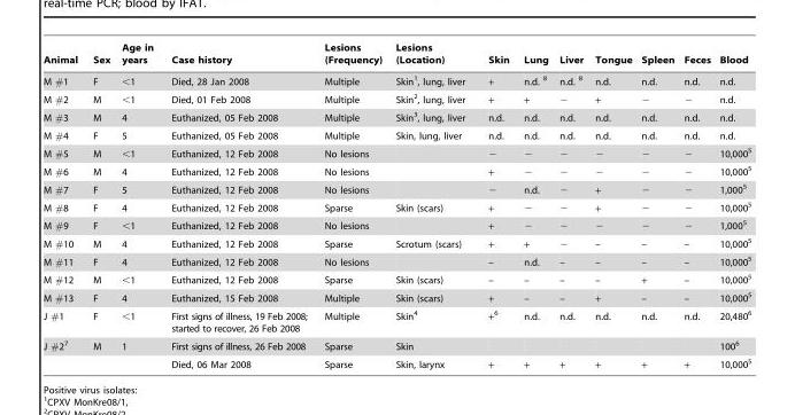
<table><thead><tr><td>Animal</td><td>Sex</td><td>Age in years</td><td>Case history</td><td>Lesions (Frequency)</td><td>Lesions (Location)</td><td>Skin</td><td>Lung</td><td>Liver</td><td>Tongue</td><td>Spleen</td><td>Feces</td><td>Blood</td></tr></thead><tbody><tr><td>M #1</td><td>F</td><td>&lt;1</td><td>Died, 28 Jan 2008</td><td>Multiple</td><td>Skin<sup>1</sup>, lung, liver</td><td>+</td><td>n.d. 8</td><td>n.d. 8</td><td>n.d.</td><td>n.d.</td><td>n.d.</td><td>n.d.</td></tr><tr><td>M #2</td><td>M</td><td>&lt;1</td><td>Died, 01 Feb 2008</td><td>Multiple</td><td>Skin<sup>2</sup>, lung, liver</td><td>+</td><td>+</td><td>−</td><td>+</td><td>−</td><td>−</td><td>n.d.</td></tr><tr><td>M #3</td><td>M</td><td>4</td><td>Euthanized, 05 Feb 2008</td><td>Multiple</td><td>Skin<sup>3</sup>, lung, liver</td><td>n.d.</td><td>n.d.</td><td>n.d.</td><td>n.d.</td><td>n.d.</td><td>n.d.</td><td>n.d.</td></tr><tr><td>M #4</td><td>F</td><td>5</td><td>Euthanized, 05 Feb 2008</td><td>Multiple</td><td>Skin, lung, liver</td><td>n.d.</td><td>n.d.</td><td>n.d.</td><td>n.d.</td><td>n.d.</td><td>n.d.</td><td>n.d.</td></tr><tr><td>M #5</td><td>M</td><td>&lt;1</td><td>Euthanized, 12 Feb 2008</td><td>No lesions</td><td></td><td>−</td><td>−</td><td>−</td><td>−</td><td>−</td><td>−</td><td>10,000<sup>5</sup></td></tr><tr><td>M #6</td><td>M</td><td>4</td><td>Euthanized, 12 Feb 2008</td><td>No lesions</td><td></td><td>+</td><td>−</td><td>−</td><td>−</td><td>−</td><td>−</td><td>10,000<sup>5</sup></td></tr><tr><td>M #7</td><td>F</td><td>5</td><td>Euthanized, 12 Feb 2008</td><td>No lesions</td><td></td><td>−</td><td>n.d.</td><td>−</td><td>+</td><td>−</td><td>−</td><td>1,000<sup>5</sup></td></tr><tr><td>M #8</td><td>F</td><td>4</td><td>Euthanized, 12 Feb 2008</td><td>Sparse</td><td>Skin (scars)</td><td>+</td><td>−</td><td>−</td><td>+</td><td>−</td><td>−</td><td>10,000<sup>5</sup></td></tr><tr><td>M #9</td><td>F</td><td>&lt;1</td><td>Euthanized, 12 Feb 2008</td><td>No lesions</td><td></td><td>+</td><td>−</td><td>−</td><td>−</td><td>−</td><td>−</td><td>1,000<sup>5</sup></td></tr><tr><td>M #10</td><td>M</td><td>4</td><td>Euthanized, 12 Feb 2008</td><td>Sparse</td><td>Scrotum (scars)</td><td>+</td><td>+</td><td>−</td><td>–</td><td>–</td><td>–</td><td>10,000<sup>5</sup></td></tr><tr><td>M #11</td><td>F</td><td>4</td><td>Euthanized, 12 Feb 2008</td><td>No lesions</td><td></td><td>–</td><td>n.d.</td><td>–</td><td>–</td><td>–</td><td>–</td><td>10,000<sup>5</sup></td></tr><tr><td>M #12</td><td>M</td><td>&lt;1</td><td>Euthanized, 12 Feb 2008</td><td>Sparse</td><td>Skin (scars)</td><td>–</td><td>–</td><td>–</td><td>–</td><td>+</td><td>–</td><td>10,000<sup>5</sup></td></tr><tr><td>M #13</td><td>F</td><td>4</td><td>Euthanized, 15 Feb 2008</td><td>Multiple</td><td>Skin (scars)</td><td>+</td><td>–</td><td>–</td><td>+</td><td>–</td><td>–</td><td>10,000<sup>5</sup></td></tr><tr><td>J #1</td><td>F</td><td>&lt;1</td><td>First signs of illness, 19 Feb 2008; started to recover, 26 Feb 2008</td><td>Multiple</td><td>Skin<sup>4</sup></td><td>+<sup>6</sup></td><td>n.d.</td><td>n.d.</td><td>n.d.</td><td>n.d.</td><td>n.d.</td><td>20,480<sup>6</sup></td></tr><tr><td rowspan="2">J #2<sup>7</sup></td><td>M</td><td>1</td><td>First signs of illness, 26 Feb 2008</td><td>Sparse</td><td>Skin</td><td></td><td></td><td></td><td></td><td></td><td></td><td>100<sup>6</sup></td></tr><tr><td></td><td></td><td>Died, 06 Mar 2008</td><td>Sparse</td><td>Skin, larynx</td><td>+</td><td>+</td><td>+</td><td>+</td><td>+</td><td>+</td><td>10,000<sup>5</sup></td></tr></tbody></table>